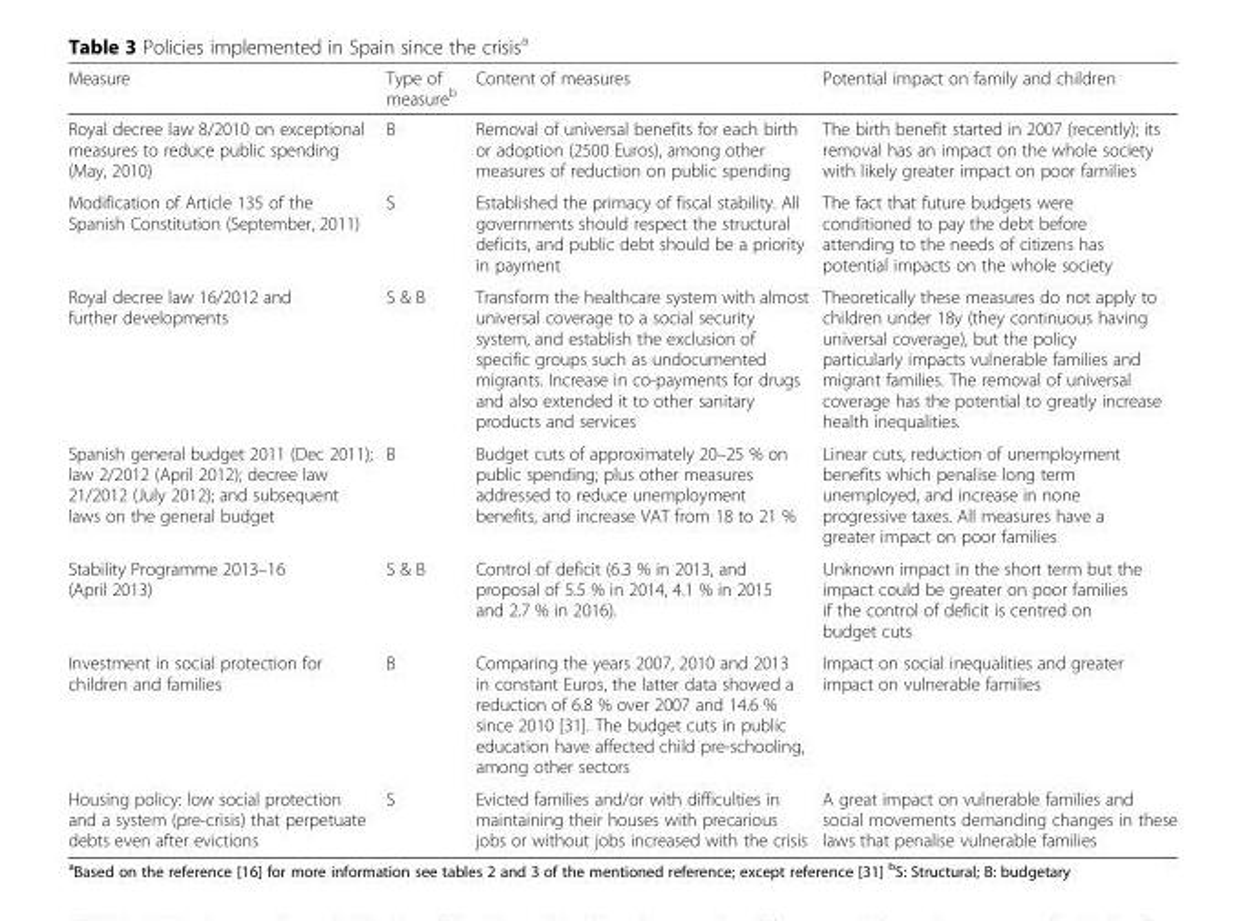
<table><thead><tr><td>Measure</td><td>Type of measure<sup>b</sup></td><td>Content of measures</td><td>Potential impact on family and children</td></tr></thead><tbody><tr><td>Royal decree law 8/2010 on exceptional measures to reduce public spending (May, 2010)</td><td>B</td><td>Removal of universal benefits for each birth or adoption (2500 Euros), among other measures of reduction on public spending</td><td>The birth benefit started in 2007 (recently); its removal has an impact on the whole society with likely greater impact on poor families</td></tr><tr><td>Modification of Article 135 of the Spanish Constitution (September, 2011)</td><td>S</td><td>Established the primacy of fiscal stability. All governments should respect the structural deficits, and public debt should be a priority in payment</td><td>The fact that future budgets were conditioned to pay the debt before attending to the needs of citizens has potential impacts on the whole society</td></tr><tr><td>Royal decree law 16/2012 and further developments</td><td>S &amp; B</td><td>Transform the healthcare system with almost universal coverage to a social security system, and establish the exclusion of specific groups such as undocumented migrants. Increase in co-payments for drugs and also extended it to other sanitary products and services</td><td>Theoretically these measures do not apply to children under 18y (they continuous having universal coverage), but the policy particularly impacts vulnerable families and migrant families. The removal of universal coverage has the potential to greatly increase health inequalities.</td></tr><tr><td>Spanish general budget 2011 (Dec 2011); law 2/2012 (April 2012); decree law 21/2012 (July 2012); and subsequent laws on the general budget</td><td>B</td><td>Budget cuts of approximately 20–25 % on public spending; plus other measures addressed to reduce unemployment benefits, and increase VAT from 18 to 21 %</td><td>Linear cuts, reduction of unemployment benefits which penalise long term unemployed, and increase in none progressive taxes. All measures have a greater impact on poor families</td></tr><tr><td>Stability Programme 2013–16 (April 2013)</td><td>S &amp; B</td><td>Control of deficit (6.3 % in 2013, and proposal of 5.5 % in 2014, 4.1 % in 2015 and 2.7 % in 2016).</td><td>Unknown impact in the short term but the impact could be greater on poor families if the control of deficit is centred on budget cuts</td></tr><tr><td>Investment in social protection for children and families</td><td>B</td><td>Comparing the years 2007, 2010 and 2013 in constant Euros, the latter data showed a reduction of 6.8 % over 2007 and 14.6 % since 2010 [31]. The budget cuts in public education have affected child pre-schooling, among other sectors</td><td>Impact on social inequalities and greater impact on vulnerable families</td></tr><tr><td>Housing policy: low social protection and a system (pre-crisis) that perpetuate debts even after evictions</td><td>S</td><td>Evicted families and/or with difficulties in maintaining their houses with precarious jobs or without jobs increased with the crisis</td><td>A great impact on vulnerable families and social movements demanding changes in these laws that penalise vulnerable families</td></tr></tbody></table>